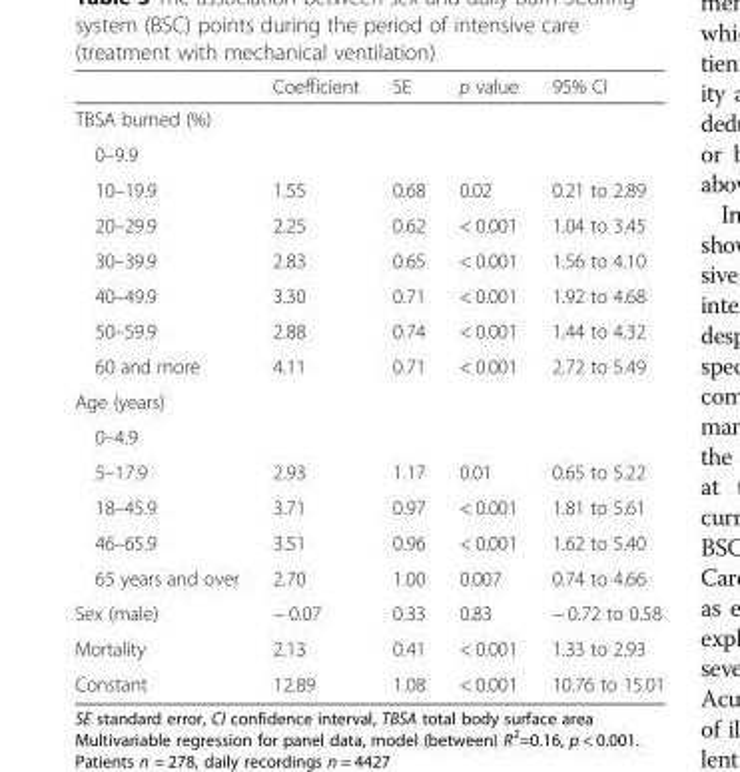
<table><thead><tr><td></td><td>Coefficient</td><td>SE</td><td>p value</td><td>95% CI</td></tr></thead><tbody><tr><td colspan="5">TBSA burned (%)</td></tr><tr><td colspan="5">0–9.9</td></tr><tr><td>10–19.9</td><td>1.55</td><td>0.68</td><td>0.02</td><td>0.21 to 2.89</td></tr><tr><td>20–29.9</td><td>2.25</td><td>0.62</td><td>&lt; 0.001</td><td>1.04 to 3.45</td></tr><tr><td>30–39.9</td><td>2.83</td><td>0.65</td><td>&lt; 0.001</td><td>1.56 to 4.10</td></tr><tr><td>40–49.9</td><td>3.30</td><td>0.71</td><td>&lt; 0.001</td><td>1.92 to 4.68</td></tr><tr><td>50–59.9</td><td>2.88</td><td>0.74</td><td>&lt; 0.001</td><td>1.44 to 4.32</td></tr><tr><td>60 and more</td><td>4.11</td><td>0.71</td><td>&lt; 0.001</td><td>2.72 to 5.49</td></tr><tr><td colspan="5">Age (years)</td></tr><tr><td colspan="5">0–4.9</td></tr><tr><td>5–17.9</td><td>2.93</td><td>1.17</td><td>0.01</td><td>0.65 to 5.22</td></tr><tr><td>18–45.9</td><td>3.71</td><td>0.97</td><td>&lt; 0.001</td><td>1.81 to 5.61</td></tr><tr><td>46–65.9</td><td>3.51</td><td>0.96</td><td>&lt; 0.001</td><td>1.62 to 5.40</td></tr><tr><td>65 years and over</td><td>2.70</td><td>1.00</td><td>0.007</td><td>0.74 to 4.66</td></tr><tr><td>Sex (male)</td><td>− 0.07</td><td>0.33</td><td>0.83</td><td>− 0.72 to 0.58</td></tr><tr><td>Mortality</td><td>2.13</td><td>0.41</td><td>&lt; 0.001</td><td>1.33 to 2.93</td></tr><tr><td>Constant</td><td>12.89</td><td>1.08</td><td>&lt; 0.001</td><td>10.76 to 15.01</td></tr></tbody></table>